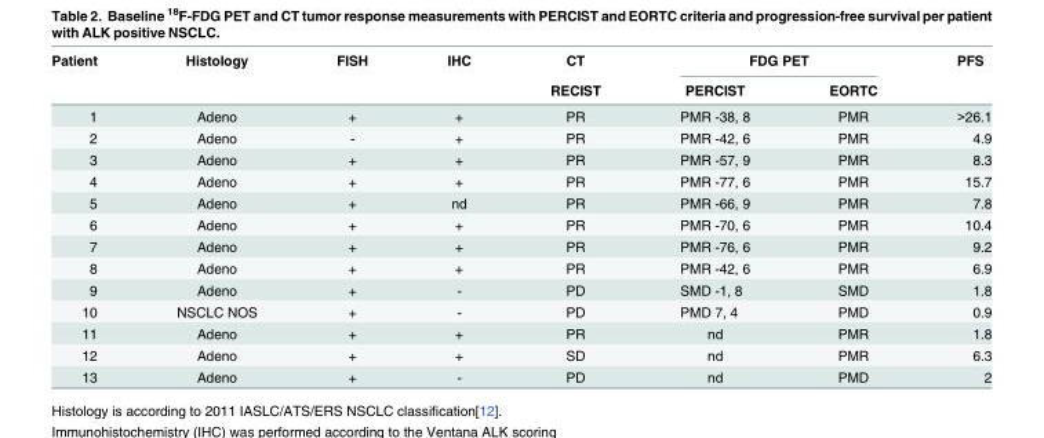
<table><thead><tr><td rowspan="2">Patient</td><td rowspan="2">Histology</td><td rowspan="2">FISH</td><td rowspan="2">IHC</td><td rowspan="2">CT RECIST</td><td colspan="2">FDG PET</td><td rowspan="2">PFS</td></tr><tr><td>PERCIST</td><td>EORTC</td></tr></thead><tbody><tr><td>1</td><td>Adeno</td><td>+</td><td>+</td><td>PR</td><td>PMR -38, 8</td><td>PMR</td><td>&gt;26.1</td></tr><tr><td>2</td><td>Adeno</td><td>-</td><td>+</td><td>PR</td><td>PMR -42, 6</td><td>PMR</td><td>4.9</td></tr><tr><td>3</td><td>Adeno</td><td>+</td><td>+</td><td>PR</td><td>PMR -57, 9</td><td>PMR</td><td>8.3</td></tr><tr><td>4</td><td>Adeno</td><td>+</td><td>+</td><td>PR</td><td>PMR -77, 6</td><td>PMR</td><td>15.7</td></tr><tr><td>5</td><td>Adeno</td><td>+</td><td>nd</td><td>PR</td><td>PMR -66, 9</td><td>PMR</td><td>7.8</td></tr><tr><td>6</td><td>Adeno</td><td>+</td><td>+</td><td>PR</td><td>PMR -70, 6</td><td>PMR</td><td>10.4</td></tr><tr><td>7</td><td>Adeno</td><td>+</td><td>+</td><td>PR</td><td>PMR -76, 6</td><td>PMR</td><td>9.2</td></tr><tr><td>8</td><td>Adeno</td><td>+</td><td>+</td><td>PR</td><td>PMR -42, 6</td><td>PMR</td><td>6.9</td></tr><tr><td>9</td><td>Adeno</td><td>+</td><td>-</td><td>PD</td><td>SMD -1, 8</td><td>SMD</td><td>1.8</td></tr><tr><td>10</td><td>NSCLC NOS</td><td>+</td><td>-</td><td>PD</td><td>PMD 7, 4</td><td>PMD</td><td>0.9</td></tr><tr><td>11</td><td>Adeno</td><td>+</td><td>+</td><td>PR</td><td>nd</td><td>PMR</td><td>1.8</td></tr><tr><td>12</td><td>Adeno</td><td>+</td><td>+</td><td>SD</td><td>nd</td><td>PMR</td><td>6.3</td></tr><tr><td>13</td><td>Adeno</td><td>+</td><td>-</td><td>PD</td><td>nd</td><td>PMD</td><td>2</td></tr></tbody></table>